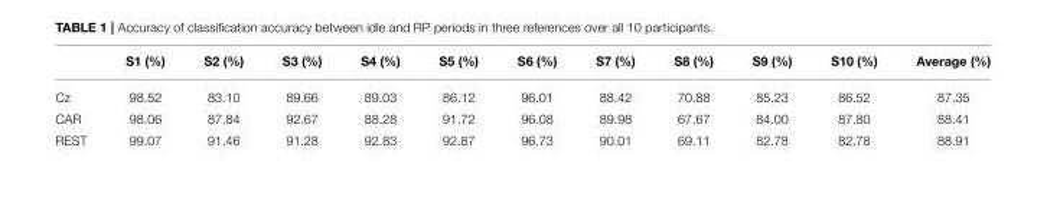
<table><thead><tr><td></td><td>S1 (%)</td><td>S2 (%)</td><td>S3 (%)</td><td>S4 (%)</td><td>S5 (%)</td><td>S6 (%)</td><td>S7 (%)</td><td>S8 (%)</td><td>S9 (%)</td><td>S10 (%)</td><td>Average (%)</td></tr></thead><tbody><tr><td>Cz</td><td>98.52</td><td>83.10</td><td>89.66</td><td>89.03</td><td>86.12</td><td>96.01</td><td>88.42</td><td>70.88</td><td>85.23</td><td>86.52</td><td>87.35</td></tr><tr><td>CAR</td><td>98.06</td><td>87.84</td><td>92.67</td><td>88.28</td><td>91.72</td><td>96.08</td><td>89.98</td><td>67.67</td><td>84.00</td><td>87.80</td><td>88.41</td></tr><tr><td>REST</td><td>99.07</td><td>91.46</td><td>91.28</td><td>92.83</td><td>92.87</td><td>96.73</td><td>90.01</td><td>69.11</td><td>82.78</td><td>82.78</td><td>88.91</td></tr></tbody></table>